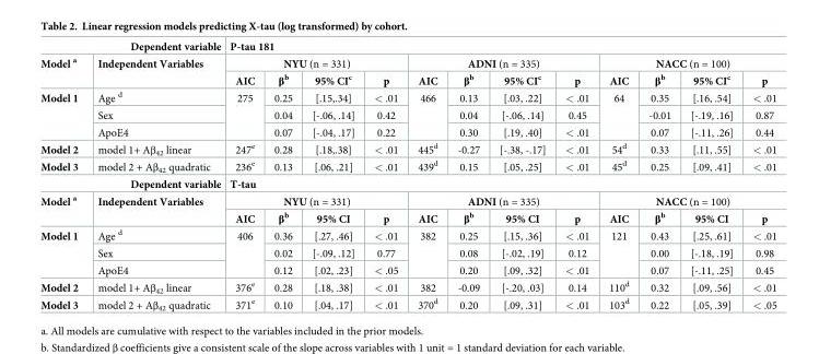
<table><tbody><tr><td colspan="2">Dependent variable</td><td colspan="12">P-tau 181</td></tr><tr><td rowspan="2">Model <sup>a</sup></td><td rowspan="2">Independent Variables</td><td colspan="4">NYU (n = 331)</td><td colspan="4">ADNI (n = 335)</td><td colspan="4">NACC (n = 100)</td></tr><tr><td>AIC</td><td>β<sup>b</sup></td><td>95% CI<sup>c</sup></td><td>p</td><td>AIC</td><td>β<sup>b</sup></td><td>95% CI<sup>c</sup></td><td>p</td><td>AIC</td><td>β<sup>b</sup></td><td>95% CI<sup>c</sup></td><td>p</td></tr><tr><td rowspan="3">Model 1</td><td>Age <sup>d</sup></td><td rowspan="3">275</td><td>0.25</td><td>[.15,.34]</td><td>&lt; .01</td><td rowspan="3">466</td><td>0.13</td><td>[.03, .22]</td><td>&lt; .01</td><td rowspan="3">64</td><td>0.35</td><td>[.16, .54]</td><td>&lt; .01</td></tr><tr><td>Sex</td><td>0.04</td><td>[-.06, .14]</td><td>0.42</td><td>0.04</td><td>[-.06, .14]</td><td>0.45</td><td>-0.01</td><td>[-.19, .16]</td><td>0.87</td></tr><tr><td>ApoE4</td><td>0.07</td><td>[-.04, .17]</td><td>0.22</td><td>0.30</td><td>[.19, .40]</td><td>&lt; .01</td><td>0.07</td><td>[-.11, .26]</td><td>0.44</td></tr><tr><td>Model 2</td><td>model 1+ Aβ<sub>42</sub> linear</td><td>247<sup>e</sup></td><td>0.28</td><td>[.18,.38]</td><td>&lt; .01</td><td>445<sup>d</sup></td><td>-0.27</td><td>[-.38, -.17]</td><td>&lt; .01</td><td>54<sup>d</sup></td><td>0.33</td><td>[.11, .55]</td><td>&lt; .01</td></tr><tr><td>Model 3</td><td>model 2 + Aβ<sub>42</sub> quadratic</td><td>236<sup>e</sup></td><td>0.13</td><td>[.06, .21]</td><td>&lt; .01</td><td>439<sup>d</sup></td><td>0.15</td><td>[.05, .25]</td><td>&lt; .01</td><td>45<sup>d</sup></td><td>0.25</td><td>[.09, .41]</td><td>&lt; .01</td></tr><tr><td colspan="2">Dependent variable</td><td colspan="12">T-tau</td></tr><tr><td rowspan="2">Model <sup>a</sup></td><td rowspan="2">Independent Variables</td><td colspan="4">NYU (n = 331)</td><td colspan="4">ADNI (n = 335)</td><td colspan="4">NACC (n = 100)</td></tr><tr><td>AIC</td><td>β<sup>b</sup></td><td>95% CI</td><td>p</td><td>AIC</td><td>β<sup>b</sup></td><td>95% CI</td><td>p</td><td>AIC</td><td>β<sup>b</sup></td><td>95% CI</td><td>p</td></tr><tr><td rowspan="3">Model 1</td><td>Age <sup>d</sup></td><td rowspan="3">406</td><td>0.36</td><td>[.27, .46]</td><td>&lt; .01</td><td rowspan="3">382</td><td>0.25</td><td>[.15, .36]</td><td>&lt; .01</td><td rowspan="3">121</td><td>0.43</td><td>[.25, .61]</td><td>&lt; .01</td></tr><tr><td>Sex</td><td>0.02</td><td>[-.09, .12]</td><td>0.77</td><td>0.08</td><td>[-.02, .19]</td><td>0.12</td><td>0.00</td><td>[-.18, .19]</td><td>0.98</td></tr><tr><td>ApoE4</td><td>0.12</td><td>[.02, .23]</td><td>&lt; .05</td><td>0.20</td><td>[.09, .32]</td><td>&lt; .01</td><td>0.07</td><td>[-.11, .25]</td><td>0.45</td></tr><tr><td>Model 2</td><td>model 1+ Aβ<sub>42</sub> linear</td><td>376<sup>e</sup></td><td>0.28</td><td>[.18, .38]</td><td>&lt; .01</td><td>382</td><td>-0.09</td><td>[-.20, .03]</td><td>0.14</td><td>110<sup>d</sup></td><td>0.32</td><td>[.09, .56]</td><td>&lt; .01</td></tr><tr><td>Model 3</td><td>model 2 + Aβ<sub>42</sub> quadratic</td><td>371<sup>e</sup></td><td>0.10</td><td>[.04, .17]</td><td>&lt; .01</td><td>370<sup>d</sup></td><td>0.20</td><td>[.09, .31]</td><td>&lt; .01</td><td>103<sup>d</sup></td><td>0.22</td><td>[.05, .39]</td><td>&lt; .05</td></tr></tbody></table>